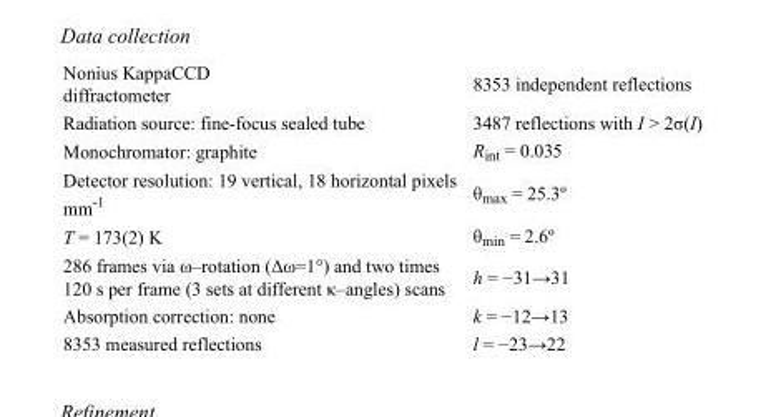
<table><tbody><tr><td>Nonius KappaCCD diffractometer</td><td>8353 independent reflections</td></tr><tr><td>Radiation source: fine-focus sealed tube</td><td>3487 reflections with I &gt; 2σ(I)</td></tr><tr><td>Monochromator: graphite</td><td>R<sub>int</sub> = 0.035</td></tr><tr><td>Detector resolution: 19 vertical, 18 horizontal pixels mm<sup>-1</sup></td><td>θ<sub>max</sub> = 25.3º</td></tr><tr><td>T = 173(2) K</td><td>θ<sub>min</sub> = 2.6º</td></tr><tr><td>286 frames via ω–rotation (Δω=1°) and two times 120 s per frame (3 sets at different κ–angles) scans</td><td>h = −31→31</td></tr><tr><td>Absorption correction: none</td><td>k = −12→13</td></tr><tr><td>8353 measured reflections</td><td>l = −23→22</td></tr></tbody></table>